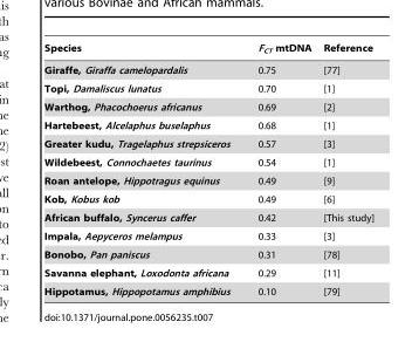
<table><thead><tr><td>Species</td><td>F<sub>CT</sub> mtDNA</td><td>Reference</td></tr></thead><tbody><tr><td>Giraffe, Giraffa camelopardalis</td><td>0.75</td><td>[77]</td></tr><tr><td>Topi, Damaliscus lunatus</td><td>0.70</td><td>[1]</td></tr><tr><td>Warthog, Phacochoerus africanus</td><td>0.69</td><td>[2]</td></tr><tr><td>Hartebeest, Alcelaphus buselaphus</td><td>0.68</td><td>[1]</td></tr><tr><td>Greater kudu, Tragelaphus strepsiceros</td><td>0.57</td><td>[3]</td></tr><tr><td>Wildebeest, Connochaetes taurinus</td><td>0.54</td><td>[1]</td></tr><tr><td>Roan antelope, Hippotragus equinus</td><td>0.49</td><td>[9]</td></tr><tr><td>Kob, Kobus kob</td><td>0.49</td><td>[6]</td></tr><tr><td>African buffalo, Syncerus caffer</td><td>0.42</td><td>[This study]</td></tr><tr><td>Impala, Aepyceros melampus</td><td>0.33</td><td>[3]</td></tr><tr><td>Bonobo, Pan paniscus</td><td>0.31</td><td>[78]</td></tr><tr><td>Savanna elephant, Loxodonta africana</td><td>0.29</td><td>[11]</td></tr><tr><td>Hippotamus, Hippopotamus amphibius</td><td>0.10</td><td>[79]</td></tr></tbody></table>